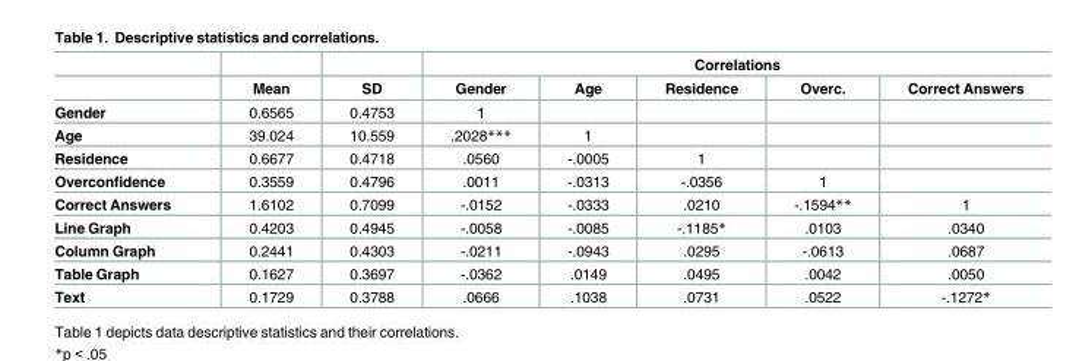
<table><thead><tr><td rowspan="2"></td><td rowspan="2">Mean</td><td rowspan="2">SD</td><td colspan="5">Correlations</td></tr><tr><td>Gender</td><td>Age</td><td>Residence</td><td>Overc.</td><td>Correct Answers</td></tr></thead><tbody><tr><td>Gender</td><td>0.6565</td><td>0.4753</td><td>1</td><td></td><td></td><td></td><td></td></tr><tr><td>Age</td><td>39.024</td><td>10.559</td><td>.2028***</td><td>1</td><td></td><td></td><td></td></tr><tr><td>Residence</td><td>0.6677</td><td>0.4718</td><td>.0560</td><td>-.0005</td><td>1</td><td></td><td></td></tr><tr><td>Overconfidence</td><td>0.3559</td><td>0.4796</td><td>.0011</td><td>-.0313</td><td>-.0356</td><td>1</td><td></td></tr><tr><td>Correct Answers</td><td>1.6102</td><td>0.7099</td><td>-.0152</td><td>-.0333</td><td>.0210</td><td>-.1594**</td><td>1</td></tr><tr><td>Line Graph</td><td>0.4203</td><td>0.4945</td><td>-.0058</td><td>-.0085</td><td>-.1185*</td><td>.0103</td><td>.0340</td></tr><tr><td>Column Graph</td><td>0.2441</td><td>0.4303</td><td>-.0211</td><td>-.0943</td><td>.0295</td><td>-.0613</td><td>.0687</td></tr><tr><td>Table Graph</td><td>0.1627</td><td>0.3697</td><td>-.0362</td><td>.0149</td><td>.0495</td><td>.0042</td><td>.0050</td></tr><tr><td>Text</td><td>0.1729</td><td>0.3788</td><td>.0666</td><td>.1038</td><td>.0731</td><td>.0522</td><td>-.1272*</td></tr></tbody></table>